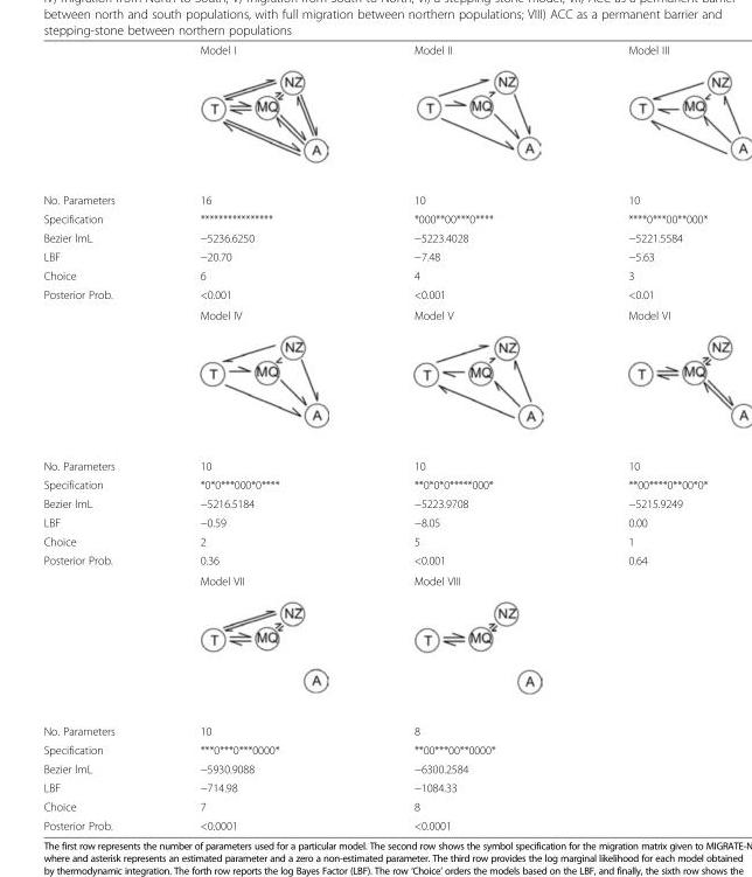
<table><thead><tr><td></td><td>Model I</td><td>Model II</td><td>Model III</td></tr></thead><tbody><tr><td>No. Parameters</td><td>16</td><td>10</td><td>10</td></tr><tr><td>Specification</td><td>****************</td><td>*000**00***0****</td><td>****0***00**000*</td></tr><tr><td>Bezier lmL</td><td>−5236.6250</td><td>−5223.4028</td><td>−5221.5584</td></tr><tr><td>LBF</td><td>−20.70</td><td>−7.48</td><td>−5.63</td></tr><tr><td>Choice</td><td>6</td><td>4</td><td>3</td></tr><tr><td rowspan="2">Posterior Prob.</td><td>&lt;0.001</td><td>&lt;0.001</td><td>&lt;0.01</td></tr><tr><td>Model IV</td><td>Model V</td><td>Model VI</td></tr><tr><td>No. Parameters</td><td>10</td><td>10</td><td>10</td></tr><tr><td>Specification</td><td>*0*0***000*0****</td><td>**0*0*0*****000*</td><td>**00****0**00*0*</td></tr><tr><td>Bezier lmL</td><td>−5216.5184</td><td>−5223.9708</td><td>−5215.9249</td></tr><tr><td>LBF</td><td>−0.59</td><td>−8.05</td><td>0.00</td></tr><tr><td>Choice</td><td>2</td><td>5</td><td>1</td></tr><tr><td rowspan="2">Posterior Prob.</td><td>0.36</td><td>&lt;0.001</td><td>0.64</td></tr><tr><td>Model VII</td><td>Model VIII</td><td></td></tr><tr><td>No. Parameters</td><td>10</td><td>8</td><td></td></tr><tr><td>Specification</td><td>***0***0***0000*</td><td>**00***00**0000*</td><td></td></tr><tr><td>Bezier lmL</td><td>−5930.9088</td><td>−6300.2584</td><td></td></tr><tr><td>LBF</td><td>−714.98</td><td>−1084.33</td><td></td></tr><tr><td>Choice</td><td>7</td><td>8</td><td></td></tr><tr><td>Posterior Prob.</td><td>&lt;0.0001</td><td>&lt;0.0001</td><td></td></tr></tbody></table>